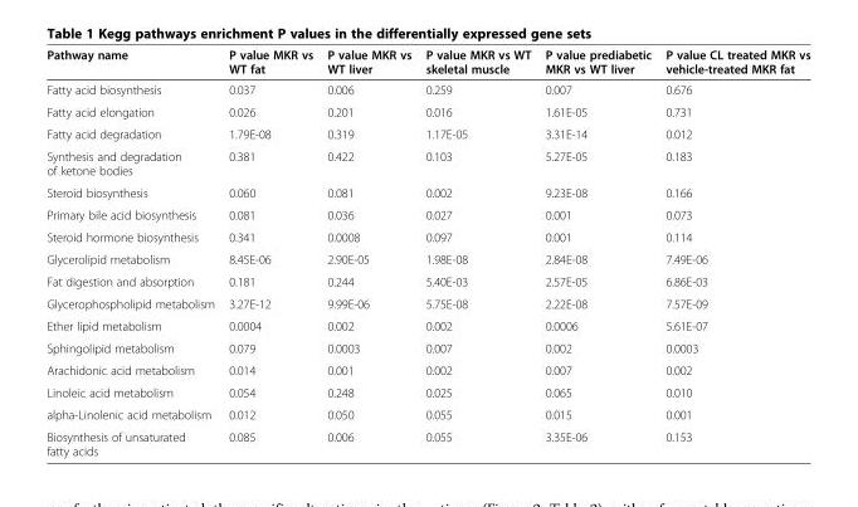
<table><thead><tr><td>Pathway name</td><td>P value MKR vs WT fat</td><td>P value MKR vs WT liver</td><td>P value MKR vs WT skeletal muscle</td><td>P value prediabetic MKR vs WT liver</td><td>P value CL treated MKR vs vehicle-treated MKR fat</td></tr></thead><tbody><tr><td>Fatty acid biosynthesis</td><td>0.037</td><td>0.006</td><td>0.259</td><td>0.007</td><td>0.676</td></tr><tr><td>Fatty acid elongation</td><td>0.026</td><td>0.201</td><td>0.016</td><td>1.61E-05</td><td>0.731</td></tr><tr><td>Fatty acid degradation</td><td>1.79E-08</td><td>0.319</td><td>1.17E-05</td><td>3.31E-14</td><td>0.012</td></tr><tr><td>Synthesis and degradation of ketone bodies</td><td>0.381</td><td>0.422</td><td>0.103</td><td>5.27E-05</td><td>0.183</td></tr><tr><td>Steroid biosynthesis</td><td>0.060</td><td>0.081</td><td>0.002</td><td>9.23E-08</td><td>0.166</td></tr><tr><td>Primary bile acid biosynthesis</td><td>0.081</td><td>0.036</td><td>0.027</td><td>0.001</td><td>0.073</td></tr><tr><td>Steroid hormone biosynthesis</td><td>0.341</td><td>0.0008</td><td>0.097</td><td>0.001</td><td>0.114</td></tr><tr><td>Glycerolipid metabolism</td><td>8.45E-06</td><td>2.90E-05</td><td>1.98E-08</td><td>2.84E-08</td><td>7.49E-06</td></tr><tr><td>Fat digestion and absorption</td><td>0.181</td><td>0.244</td><td>5.40E-03</td><td>2.57E-05</td><td>6.86E-03</td></tr><tr><td>Glycerophospholipid metabolism</td><td>3.27E-12</td><td>9.99E-06</td><td>5.75E-08</td><td>2.22E-08</td><td>7.57E-09</td></tr><tr><td>Ether lipid metabolism</td><td>0.0004</td><td>0.002</td><td>0.002</td><td>0.0006</td><td>5.61E-07</td></tr><tr><td>Sphingolipid metabolism</td><td>0.079</td><td>0.0003</td><td>0.007</td><td>0.002</td><td>0.0003</td></tr><tr><td>Arachidonic acid metabolism</td><td>0.014</td><td>0.001</td><td>0.002</td><td>0.007</td><td>0.002</td></tr><tr><td>Linoleic acid metabolism</td><td>0.054</td><td>0.248</td><td>0.025</td><td>0.065</td><td>0.010</td></tr><tr><td>alpha-Linolenic acid metabolism</td><td>0.012</td><td>0.050</td><td>0.055</td><td>0.015</td><td>0.001</td></tr><tr><td>Biosynthesis of unsaturated fatty acids</td><td>0.085</td><td>0.006</td><td>0.055</td><td>3.35E-06</td><td>0.153</td></tr></tbody></table>